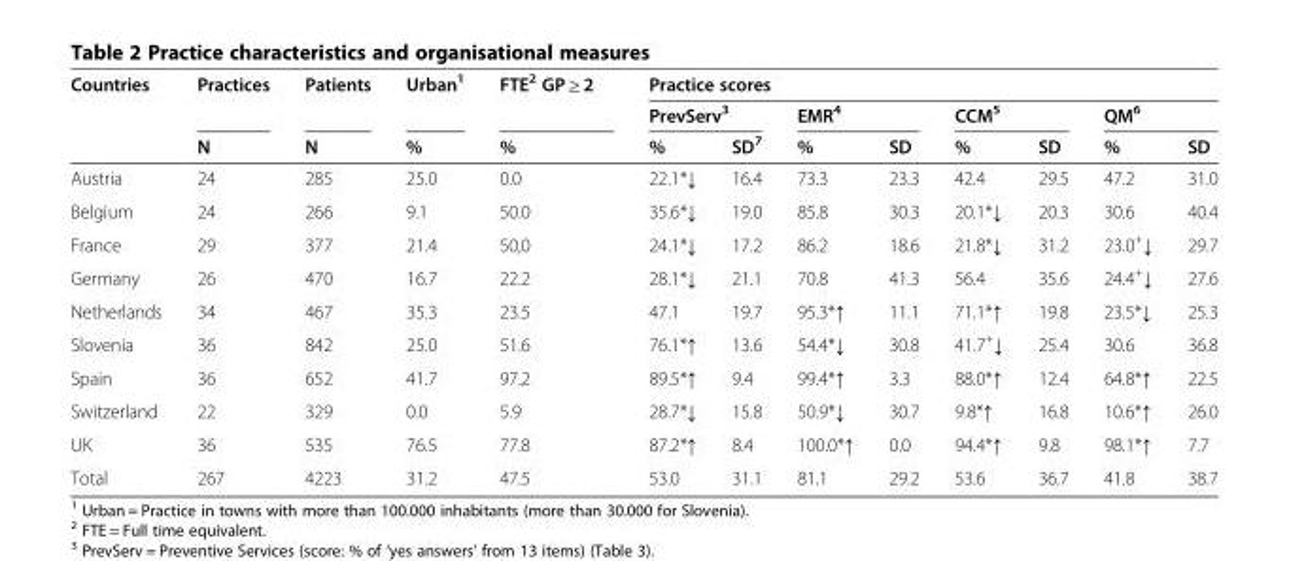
<table><thead><tr><td rowspan="3">Countries</td><td rowspan="3">Practices N</td><td rowspan="3">Patients N</td><td rowspan="3">Urban<sup>1</sup> %</td><td rowspan="3">FTE<sup>2</sup> GP ≥ 2 %</td><td colspan="8">Practice scores</td></tr><tr><td colspan="2">PrevServ<sup>3</sup></td><td colspan="2">EMR<sup>4</sup></td><td colspan="2">CCM<sup>5</sup></td><td colspan="2">QM<sup>6</sup></td></tr><tr><td>%</td><td>SD<sup>7</sup></td><td>%</td><td>SD</td><td>%</td><td>SD</td><td>%</td><td>SD</td></tr></thead><tbody><tr><td>Austria</td><td>24</td><td>285</td><td>25.0</td><td>0.0</td><td>22.1*↓</td><td>16.4</td><td>73.3</td><td>23.3</td><td>42.4</td><td>29.5</td><td>47.2</td><td>31.0</td></tr><tr><td>Belgium</td><td>24</td><td>266</td><td>9.1</td><td>50.0</td><td>35.6*↓</td><td>19.0</td><td>85.8</td><td>30.3</td><td>20.1*↓</td><td>20.3</td><td>30.6</td><td>40.4</td></tr><tr><td>France</td><td>29</td><td>377</td><td>21.4</td><td>50,0</td><td>24.1*↓</td><td>17.2</td><td>86.2</td><td>18.6</td><td>21.8*↓</td><td>31.2</td><td>23.0<sup>+</sup>↓</td><td>29.7</td></tr><tr><td>Germany</td><td>26</td><td>470</td><td>16.7</td><td>22.2</td><td>28.1*↓</td><td>21.1</td><td>70.8</td><td>41.3</td><td>56.4</td><td>35.6</td><td>24.4<sup>+</sup>↓</td><td>27.6</td></tr><tr><td>Netherlands</td><td>34</td><td>467</td><td>35.3</td><td>23.5</td><td>47.1</td><td>19.7</td><td>95.3*↑</td><td>11.1</td><td>71.1*↑</td><td>19.8</td><td>23.5*↓</td><td>25.3</td></tr><tr><td>Slovenia</td><td>36</td><td>842</td><td>25.0</td><td>51.6</td><td>76.1*↑</td><td>13.6</td><td>54.4*↓</td><td>30.8</td><td>41.7<sup>+</sup>↓</td><td>25.4</td><td>30.6</td><td>36.8</td></tr><tr><td>Spain</td><td>36</td><td>652</td><td>41.7</td><td>97.2</td><td>89.5*↑</td><td>9.4</td><td>99.4*↑</td><td>3.3</td><td>88.0*↑</td><td>12.4</td><td>64.8*↑</td><td>22.5</td></tr><tr><td>Switzerland</td><td>22</td><td>329</td><td>0.0</td><td>5.9</td><td>28.7*↓</td><td>15.8</td><td>50.9*↓</td><td>30.7</td><td>9.8*↑</td><td>16.8</td><td>10.6*↑</td><td>26.0</td></tr><tr><td>UK</td><td>36</td><td>535</td><td>76.5</td><td>77.8</td><td>87.2*↑</td><td>8.4</td><td>100.0*↑</td><td>0.0</td><td>94.4*↑</td><td>9.8</td><td>98.1*↑</td><td>7.7</td></tr><tr><td>Total</td><td>267</td><td>4223</td><td>31.2</td><td>47.5</td><td>53.0</td><td>31.1</td><td>81.1</td><td>29.2</td><td>53.6</td><td>36.7</td><td>41.8</td><td>38.7</td></tr></tbody></table>